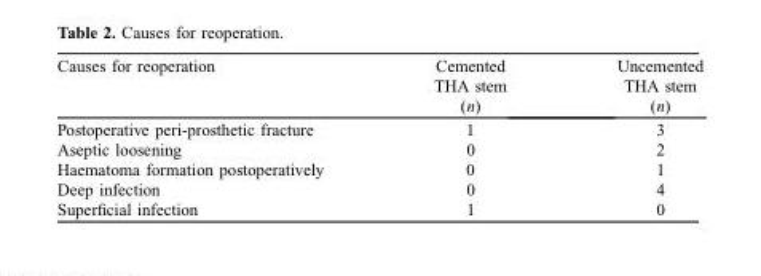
<table><thead><tr><td>Causes for reoperation</td><td>Cemented THA stem (n)</td><td>Uncemented THA stem (n)</td></tr></thead><tbody><tr><td>Postoperative peri-prosthetic fracture</td><td>1</td><td>3</td></tr><tr><td>Aseptic loosening</td><td>0</td><td>2</td></tr><tr><td>Haematoma formation postoperatively</td><td>0</td><td>1</td></tr><tr><td>Deep infection</td><td>0</td><td>4</td></tr><tr><td>Superficial infection</td><td>1</td><td>0</td></tr></tbody></table>